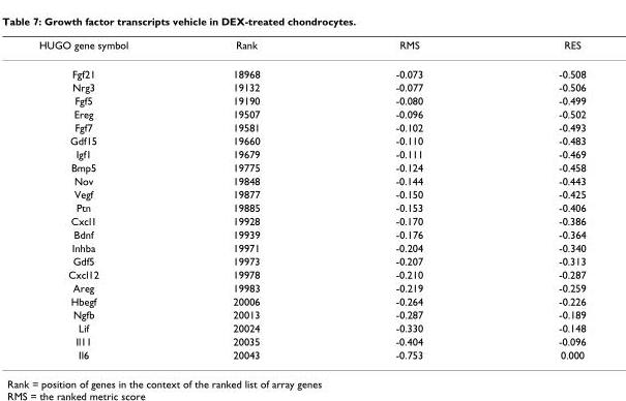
<table><thead><tr><td>HUGO gene symbol</td><td>Rank</td><td>RMS</td><td>RES</td></tr></thead><tbody><tr><td>Fgf21</td><td>18968</td><td>-0.073</td><td>-0.508</td></tr><tr><td>Nrg3</td><td>19132</td><td>-0.077</td><td>-0.506</td></tr><tr><td>Fgf5</td><td>19190</td><td>-0.080</td><td>-0.499</td></tr><tr><td>Ereg</td><td>19507</td><td>-0.096</td><td>-0.502</td></tr><tr><td>Fgf7</td><td>19581</td><td>-0.102</td><td>-0.493</td></tr><tr><td>Gdf15</td><td>19660</td><td>-0.110</td><td>-0.483</td></tr><tr><td>Igf1</td><td>19679</td><td>-0.111</td><td>-0.469</td></tr><tr><td>Bmp5</td><td>19775</td><td>-0.124</td><td>-0.458</td></tr><tr><td>Nov</td><td>19848</td><td>-0.144</td><td>-0.443</td></tr><tr><td>Vegf</td><td>19877</td><td>-0.150</td><td>-0.425</td></tr><tr><td>Ptn</td><td>19885</td><td>-0.153</td><td>-0.406</td></tr><tr><td>Cxcl1</td><td>19928</td><td>-0.170</td><td>-0.386</td></tr><tr><td>Bdnf</td><td>19939</td><td>-0.176</td><td>-0.364</td></tr><tr><td>Inhba</td><td>19971</td><td>-0.204</td><td>-0.340</td></tr><tr><td>Gdf5</td><td>19973</td><td>-0.207</td><td>-0.313</td></tr><tr><td>Cxcl12</td><td>19978</td><td>-0.210</td><td>-0.287</td></tr><tr><td>Areg</td><td>19983</td><td>-0.219</td><td>-0.259</td></tr><tr><td>Hbegf</td><td>20006</td><td>-0.264</td><td>-0.226</td></tr><tr><td>Ngfb</td><td>20013</td><td>-0.287</td><td>-0.189</td></tr><tr><td>Lif</td><td>20024</td><td>-0.330</td><td>-0.148</td></tr><tr><td>Il11</td><td>20035</td><td>-0.404</td><td>-0.096</td></tr><tr><td>Il6</td><td>20043</td><td>-0.753</td><td>0.000</td></tr></tbody></table>